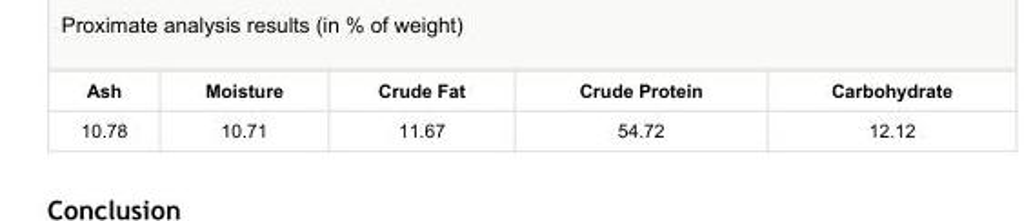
<table><tbody><tr><td>Ash</td><td>Moisture</td><td>Crude Fat</td><td>Crude Protein</td><td>Carbohydrate</td></tr><tr><td>10.78</td><td>10.71</td><td>11.67</td><td>54.72</td><td>12.12</td></tr></tbody></table>